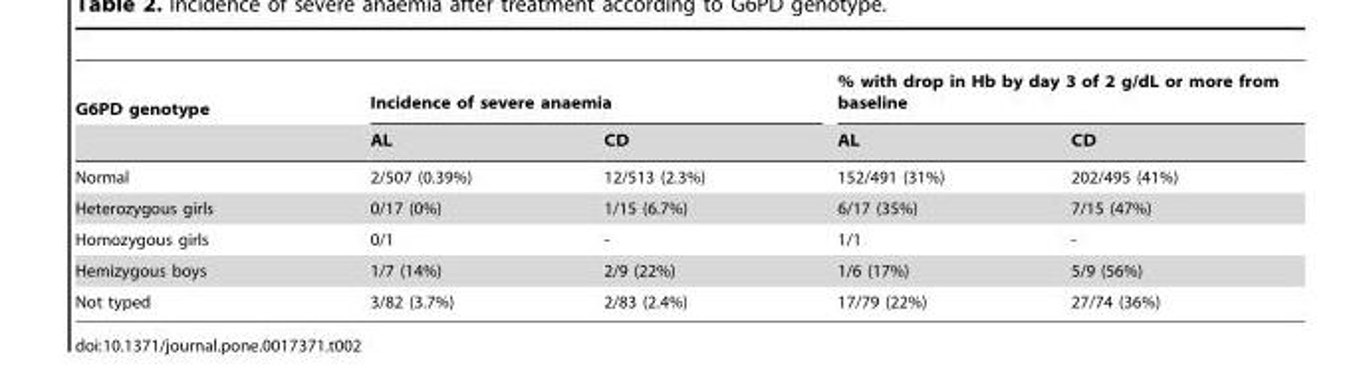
<table><thead><tr><td rowspan="2">G6PD genotype</td><td colspan="2">Incidence of severe anaemia</td><td colspan="2">% with drop in Hb by day 3 of 2 g/dL or more from baseline</td></tr><tr><td>AL</td><td>CD</td><td>AL</td><td>CD</td></tr></thead><tbody><tr><td>Normal</td><td>2/507 (0.39%)</td><td>12/513 (2.3%)</td><td>152/491 (31%)</td><td>202/495 (41%)</td></tr><tr><td>Heterozygous girls</td><td>0/17 (0%)</td><td>1/15 (6.7%)</td><td>6/17 (35%)</td><td>7/15 (47%)</td></tr><tr><td>Homozygous girls</td><td>0/1</td><td>-</td><td>1/1</td><td>-</td></tr><tr><td>Hemizygous boys</td><td>1/7 (14%)</td><td>2/9 (22%)</td><td>1/6 (17%)</td><td>5/9 (56%)</td></tr><tr><td>Not typed</td><td>3/82 (3.7%)</td><td>2/83 (2.4%)</td><td>17/79 (22%)</td><td>27/74 (36%)</td></tr></tbody></table>